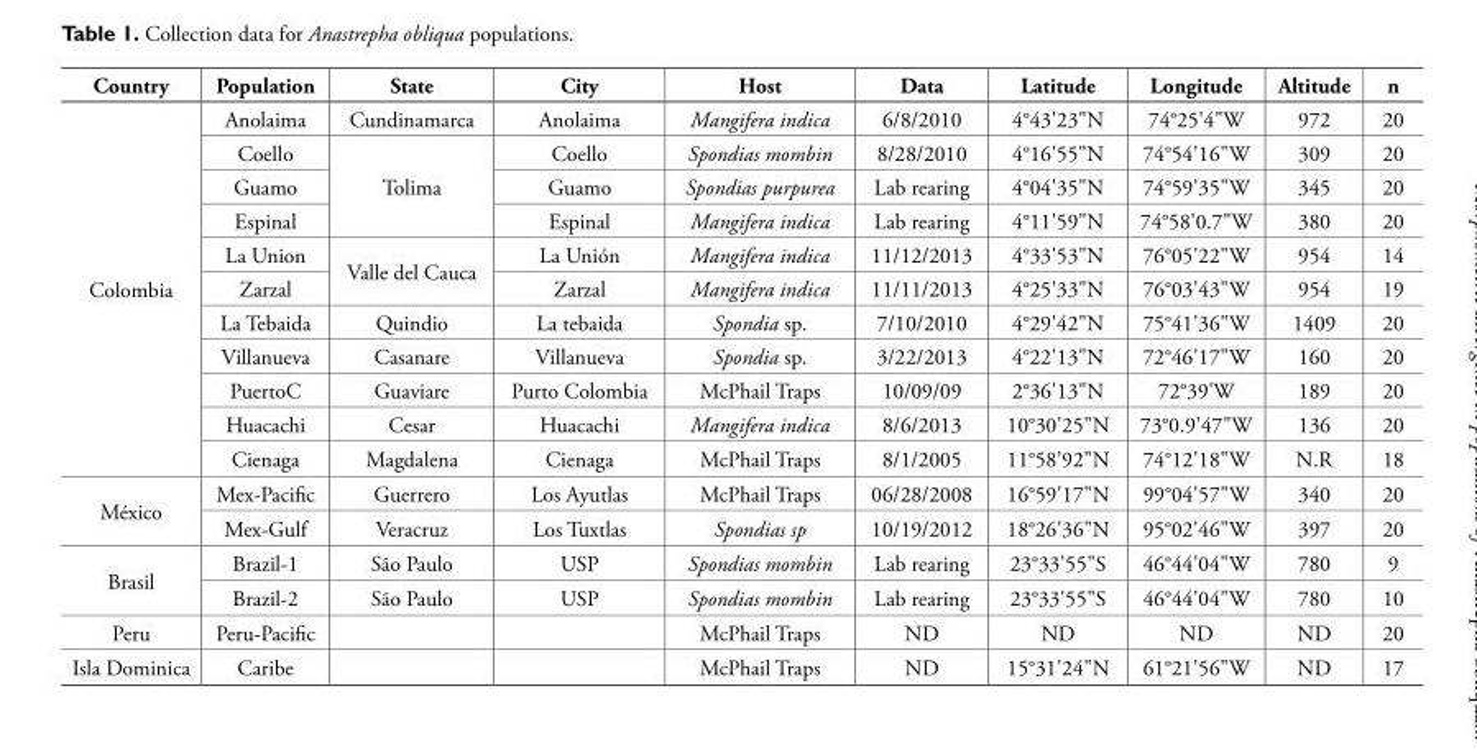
<table><thead><tr><td>Country</td><td>Population</td><td>State</td><td>City</td><td>Host</td><td>Data</td><td>Latitude</td><td>Longitude</td><td>Altitude</td><td>n</td></tr></thead><tbody><tr><td rowspan="11">Colombia</td><td>Anolaima</td><td>Cundinamarca</td><td>Anolaima</td><td>Mangifera indica</td><td>6/8/2010</td><td>4°43&#x27;23&quot;N</td><td>74°25&#x27;4&quot;W</td><td>972</td><td>20</td></tr><tr><td>Coello</td><td rowspan="3">Tolima</td><td>Coello</td><td>Spondias mombin</td><td>8/28/2010</td><td>4°16&#x27;55&quot;N</td><td>74°54&#x27;16&quot;W</td><td>309</td><td>20</td></tr><tr><td>Guamo</td><td>Guamo</td><td>Spondias purpurea</td><td>Lab rearing</td><td>4°04&#x27;35&quot;N</td><td>74°59&#x27;35&quot;W</td><td>345</td><td>20</td></tr><tr><td>Espinal</td><td>Espinal</td><td>Mangifera indica</td><td>Lab rearing</td><td>4°11&#x27;59&quot;N</td><td>74°58&#x27;0.7&quot;W</td><td>380</td><td>20</td></tr><tr><td>La Union</td><td rowspan="2">Valle del Cauca</td><td>La Unión</td><td>Mangifera indica</td><td>11/12/2013</td><td>4°33&#x27;53&quot;N</td><td>76°05&#x27;22&quot;W</td><td>954</td><td>14</td></tr><tr><td>Zarzal</td><td>Zarzal</td><td>Mangifera indica</td><td>11/11/2013</td><td>4°25&#x27;33&quot;N</td><td>76°03&#x27;43&quot;W</td><td>954</td><td>19</td></tr><tr><td>La Tebaida</td><td>Quindio</td><td>La tebaida</td><td>Spondia sp.</td><td>7/10/2010</td><td>4°29&#x27;42&quot;N</td><td>75°41&#x27;36&quot;W</td><td>1409</td><td>20</td></tr><tr><td>Villanueva</td><td>Casanare</td><td>Villanueva</td><td>Spondia sp.</td><td>3/22/2013</td><td>4°22&#x27;13&quot;N</td><td>72°46&#x27;17&quot;W</td><td>160</td><td>20</td></tr><tr><td>PuertoC</td><td>Guaviare</td><td>Purto Colombia</td><td>McPhail Traps</td><td>10/09/09</td><td>2°36&#x27;13&quot;N</td><td>72°39&#x27;W</td><td>189</td><td>20</td></tr><tr><td>Huacachi</td><td>Cesar</td><td>Huacachi</td><td>Mangifera indica</td><td>8/6/2013</td><td>10°30&#x27;25&quot;N</td><td>73°0.9&#x27;47&quot;W</td><td>136</td><td>20</td></tr><tr><td>Cienaga</td><td>Magdalena</td><td>Cienaga</td><td>McPhail Traps</td><td>8/1/2005</td><td>11°58&#x27;92&quot;N</td><td>74°12&#x27;18&quot;W</td><td>N.R</td><td>18</td></tr><tr><td rowspan="2">México</td><td>Mex-Pacific</td><td>Guerrero</td><td>Los Ayutlas</td><td>McPhail Traps</td><td>06/28/2008</td><td>16°59&#x27;17&quot;N</td><td>99°04&#x27;57&quot;W</td><td>340</td><td>20</td></tr><tr><td>Mex-Gulf</td><td>Veracruz</td><td>Los Tuxtlas</td><td>Spondias sp</td><td>10/19/2012</td><td>18°26&#x27;36&quot;N</td><td>95°02&#x27;46&quot;W</td><td>397</td><td>20</td></tr><tr><td rowspan="2">Brasil</td><td>Brazil-1</td><td>São Paulo</td><td>USP</td><td>Spondias mombin</td><td>Lab rearing</td><td>23°33&#x27;55&quot;S</td><td>46°44&#x27;04&quot;W</td><td>780</td><td>9</td></tr><tr><td>Brazil-2</td><td>São Paulo</td><td>USP</td><td>Spondias mombin</td><td>Lab rearing</td><td>23°33&#x27;55&quot;S</td><td>46°44&#x27;04&quot;W</td><td>780</td><td>10</td></tr><tr><td>Peru</td><td>Peru-Pacific</td><td></td><td></td><td>McPhail Traps</td><td>ND</td><td>ND</td><td>ND</td><td>ND</td><td>20</td></tr><tr><td>Isla Dominica</td><td>Caribe</td><td></td><td></td><td>McPhail Traps</td><td>ND</td><td>15°31&#x27;24&quot;N</td><td>61°21&#x27;56&quot;W</td><td>ND</td><td>17</td></tr></tbody></table>